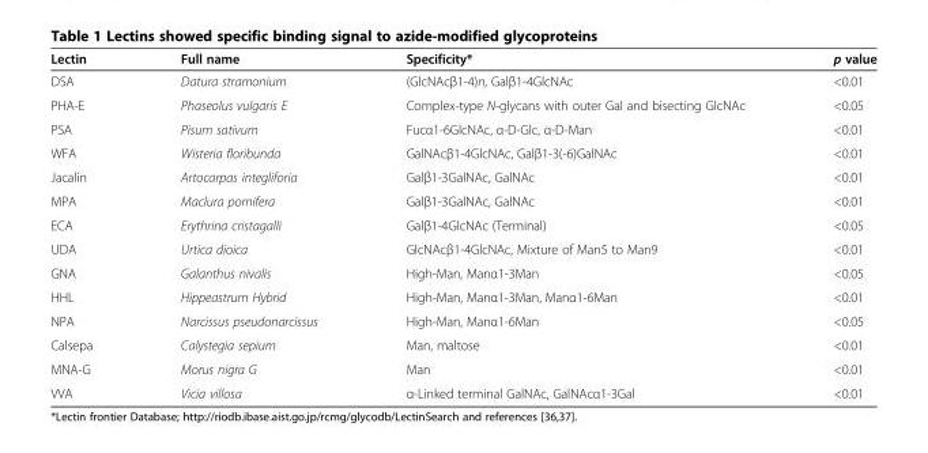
<table><thead><tr><td>Lectin</td><td>Full name</td><td>Specificity*</td><td>p value</td></tr></thead><tbody><tr><td>DSA</td><td>Datura stramonium</td><td>(GlcNAcβ1-4)n, Galβ1-4GlcNAc</td><td>&lt;0.01</td></tr><tr><td>PHA-E</td><td>Phaseolus vulgaris E</td><td>Complex-type N-glycans with outer Gal and bisecting GlcNAc</td><td>&lt;0.05</td></tr><tr><td>PSA</td><td>Pisum sativum</td><td>Fucα1-6GlcNAc, α-D-Glc, α-D-Man</td><td>&lt;0.01</td></tr><tr><td>WFA</td><td>Wisteria floribunda</td><td>GalNAcβ1-4GlcNAc, Galβ1-3(-6)GalNAc</td><td>&lt;0.01</td></tr><tr><td>Jacalin</td><td>Artocarpas integliforia</td><td>Galβ1-3GalNAc, GalNAc</td><td>&lt;0.01</td></tr><tr><td>MPA</td><td>Maclura pomifera</td><td>Galβ1-3GalNAc, GalNAc</td><td>&lt;0.01</td></tr><tr><td>ECA</td><td>Erythrina cristagalli</td><td>Galβ1-4GlcNAc (Terminal)</td><td>&lt;0.05</td></tr><tr><td>UDA</td><td>Urtica dioica</td><td>GlcNAcβ1-4GlcNAc, Mixture of Man5 to Man9</td><td>&lt;0.01</td></tr><tr><td>GNA</td><td>Galanthus nivalis</td><td>High-Man, Manα1-3Man</td><td>&lt;0.05</td></tr><tr><td>HHL</td><td>Hippeastrum Hybrid</td><td>High-Man, Manα1-3Man, Manα1-6Man</td><td>&lt;0.01</td></tr><tr><td>NPA</td><td>Narcissus pseudonarcissus</td><td>High-Man, Manα1-6Man</td><td>&lt;0.05</td></tr><tr><td>Calsepa</td><td>Calystegia sepium</td><td>Man, maltose</td><td>&lt;0.01</td></tr><tr><td>MNA-G</td><td>Morus nigra G</td><td>Man</td><td>&lt;0.01</td></tr><tr><td>VVA</td><td>Vicia villosa</td><td>α-Linked terminal GalNAc, GalNAcα1-3Gal</td><td>&lt;0.01</td></tr></tbody></table>